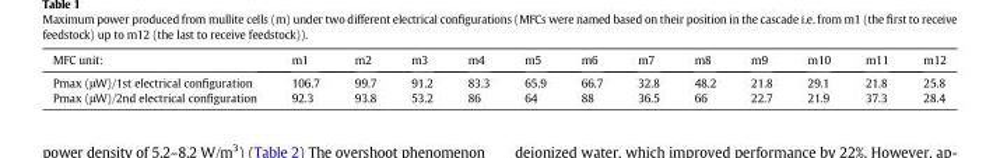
<table><thead><tr><td>MFC unit:</td><td>m1</td><td>m2</td><td>m3</td><td>m4</td><td>m5</td><td>m6</td><td>m7</td><td>m8</td><td>m9</td><td>m10</td><td>m11</td><td>m12</td></tr></thead><tbody><tr><td>Pmax (μW)/1st electrical configuration</td><td>106.7</td><td>99.7</td><td>91.2</td><td>83.3</td><td>65.9</td><td>66.7</td><td>32.8</td><td>48.2</td><td>21.8</td><td>29.1</td><td>21.8</td><td>25.8</td></tr><tr><td>Pmax (μW)/2nd electrical configuration</td><td>92.3</td><td>93.8</td><td>53.2</td><td>86</td><td>64</td><td>88</td><td>36.5</td><td>66</td><td>22.7</td><td>21.9</td><td>37.3</td><td>28.4</td></tr></tbody></table>